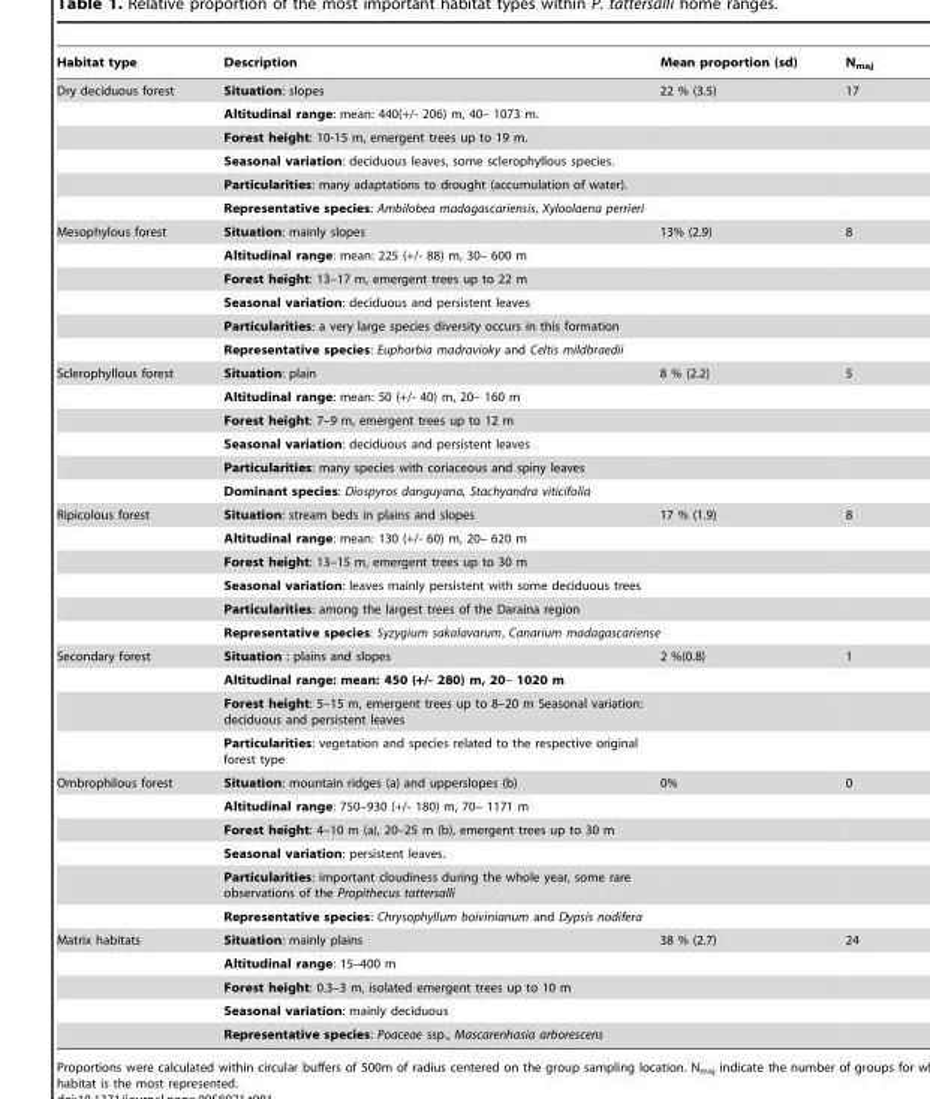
<table><thead><tr><td>Habitat type</td><td>Description</td><td>Mean proportion (sd)</td><td>N<sub>maj</sub></td></tr></thead><tbody><tr><td rowspan="6">Dry deciduous forest</td><td>Situation: slopes</td><td>22 % (3.5)</td><td>17</td></tr><tr><td>Altitudinal range: mean: 440(+/- 206) m, 40– 1073 m.</td><td></td><td></td></tr><tr><td>Forest height: 10-15 m, emergent trees up to 19 m.</td><td></td><td></td></tr><tr><td>Seasonal variation: deciduous leaves, some sclerophyllous species.</td><td></td><td></td></tr><tr><td>Particularities: many adaptations to drought (accumulation of water).</td><td></td><td></td></tr><tr><td>Representative species: Ambilobea madagascariensis, Xyloolaena perrieri</td><td></td><td></td></tr><tr><td rowspan="6">Mesophylous forest</td><td>Situation: mainly slopes</td><td>13% (2.9)</td><td>8</td></tr><tr><td>Altitudinal range: mean: 225 (+/- 88) m, 30– 600 m</td><td></td><td></td></tr><tr><td>Forest height: 13–17 m, emergent trees up to 22 m</td><td></td><td></td></tr><tr><td>Seasonal variation: deciduous and persistent leaves</td><td></td><td></td></tr><tr><td>Particularities: a very large species diversity occurs in this formation</td><td></td><td></td></tr><tr><td>Representative species: Euphorbia madravioky and Celtis mildbraedii</td><td></td><td></td></tr><tr><td rowspan="6">Sclerophyllous forest</td><td>Situation: plain</td><td>8 % (2.2)</td><td>5</td></tr><tr><td>Altitudinal range: mean: 50 (+/- 40) m, 20– 160 m</td><td></td><td></td></tr><tr><td>Forest height: 7–9 m, emergent trees up to 12 m</td><td></td><td></td></tr><tr><td>Seasonal variation: deciduous and persistent leaves</td><td></td><td></td></tr><tr><td>Particularities: many species with coriaceous and spiny leaves</td><td></td><td></td></tr><tr><td>Dominant species: Diospyros danguyana, Stachyandra viticifolia</td><td></td><td></td></tr><tr><td rowspan="6">Ripicolous forest</td><td>Situation: stream beds in plains and slopes</td><td>17 % (1.9)</td><td>8</td></tr><tr><td>Altitudinal range: mean: 130 (+/- 60) m, 20– 620 m</td><td></td><td></td></tr><tr><td>Forest height: 13–15 m, emergent trees up to 30 m</td><td></td><td></td></tr><tr><td>Seasonal variation: leaves mainly persistent with some deciduous trees</td><td></td><td></td></tr><tr><td>Particularities: among the largest trees of the Daraina region</td><td></td><td></td></tr><tr><td>Representative species: Syzygium sakalavarum, Canarium madagascariense</td><td></td><td></td></tr><tr><td rowspan="4">Secondary forest</td><td>Situation : plains and slopes</td><td>2 %(0.8)</td><td>1</td></tr><tr><td>Altitudinal range: mean: 450 (+/- 280) m, 20– 1020 m</td><td></td><td></td></tr><tr><td>Forest height: 5–15 m, emergent trees up to 8–20 m Seasonal variation: deciduous and persistent leaves</td><td></td><td></td></tr><tr><td>Particularities: vegetation and species related to the respective original forest type</td><td></td><td></td></tr><tr><td rowspan="6">Ombrophilous forest</td><td>Situation: mountain ridges (a) and upperslopes (b)</td><td>0%</td><td>0</td></tr><tr><td>Altitudinal range: 750–930 (+/- 180) m, 70– 1171 m</td><td></td><td></td></tr><tr><td>Forest height: 4–10 m (a), 20–25 m (b), emergent trees up to 30 m</td><td></td><td></td></tr><tr><td>Seasonal variation: persistent leaves.</td><td></td><td></td></tr><tr><td>Particularities: important cloudiness during the whole year, some rare observations of the Propithecus tattersalli</td><td></td><td></td></tr><tr><td>Representative species: Chrysophyllum boivinianum and Dypsis nodifera</td><td></td><td></td></tr><tr><td rowspan="5">Matrix habitats</td><td>Situation: mainly plains</td><td>38 % (2.7)</td><td>24</td></tr><tr><td>Altitudinal range: 15–400 m</td><td></td><td></td></tr><tr><td>Forest height: 0.3–3 m, isolated emergent trees up to 10 m</td><td></td><td></td></tr><tr><td>Seasonal variation: mainly deciduous</td><td></td><td></td></tr><tr><td>Representative species: Poaceae ssp., Mascarenhasia arborescens</td><td></td><td></td></tr></tbody></table>